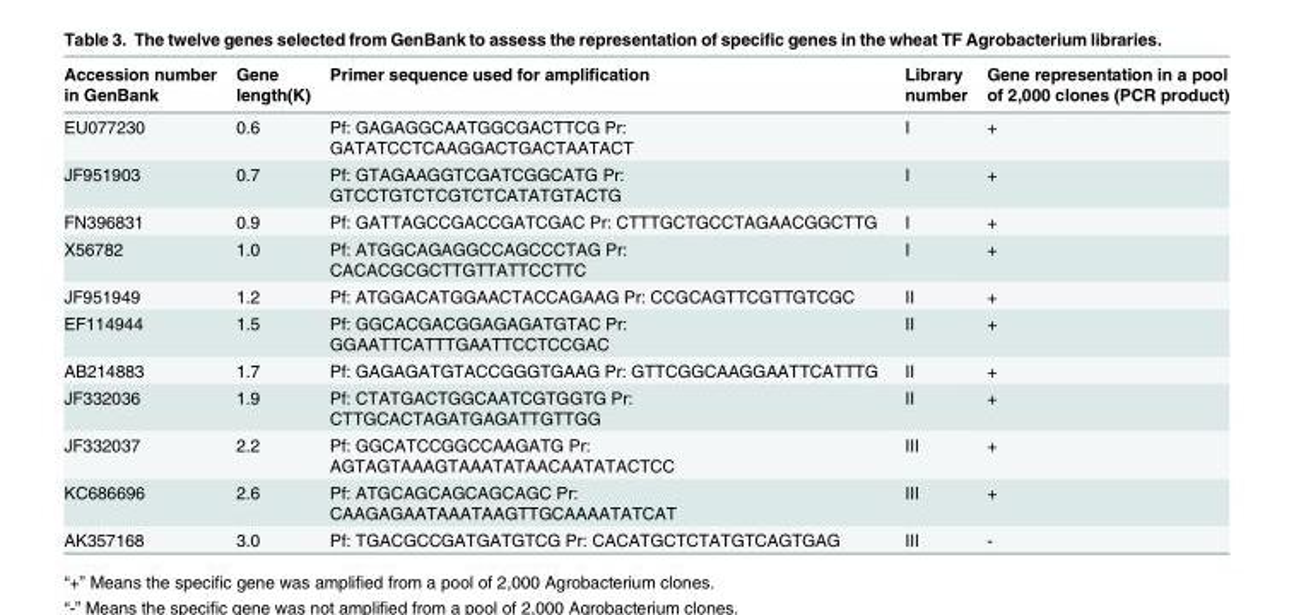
<table><thead><tr><td>Accession number in GenBank</td><td>Gene length(K)</td><td>Primer sequence used for amplification</td><td>Library number</td><td>Gene representation in a pool of 2,000 clones (PCR product)</td></tr></thead><tbody><tr><td>EU077230</td><td>0.6</td><td>Pf: GAGAGGCAATGGCGACTTCG Pr: GATATCCTCAAGGACTGACTAATACT</td><td>I</td><td>+</td></tr><tr><td>JF951903</td><td>0.7</td><td>Pf: GTAGAAGGTCGATCGGCATG Pr: GTCCTGTCTCGTCTCATATGTACTG</td><td>I</td><td>+</td></tr><tr><td>FN396831</td><td>0.9</td><td>Pf: GATTAGCCGACCGATCGAC Pr: CTTTGCTGCCTAGAACGGCTTG</td><td>I</td><td>+</td></tr><tr><td>X56782</td><td>1.0</td><td>Pf: ATGGCAGAGGCCAGCCCTAG Pr: CACACGCGCTTGTTATTCCTTC</td><td>I</td><td>+</td></tr><tr><td>JF951949</td><td>1.2</td><td>Pf: ATGGACATGGAACTACCAGAAG Pr: CCGCAGTTCGTTGTCGC</td><td>II</td><td>+</td></tr><tr><td>EF114944</td><td>1.5</td><td>Pf: GGCACGACGGAGAGATGTAC Pr: GGAATTCATTTGAATTCCTCCGAC</td><td>II</td><td>+</td></tr><tr><td>AB214883</td><td>1.7</td><td>Pf: GAGAGATGTACCGGGTGAAG Pr: GTTCGGCAAGGAATTCATTTG</td><td>II</td><td>+</td></tr><tr><td>JF332036</td><td>1.9</td><td>Pf: CTATGACTGGCAATCGTGGTG Pr: CTTGCACTAGATGAGATTGTTGG</td><td>II</td><td>+</td></tr><tr><td>JF332037</td><td>2.2</td><td>Pf: GGCATCCGGCCAAGATG Pr: AGTAGTAAAGTAAATATAACAATATACTCC</td><td>III</td><td>+</td></tr><tr><td>KC686696</td><td>2.6</td><td>Pf: ATGCAGCAGCAGCAGC Pr: CAAGAGAATAAATAAGTTGCAAAATATCAT</td><td>III</td><td>+</td></tr><tr><td>AK357168</td><td>3.0</td><td>Pf: TGACGCCGATGATGTCG Pr: CACATGCTCTATGTCAGTGAG</td><td>III</td><td>-</td></tr></tbody></table>